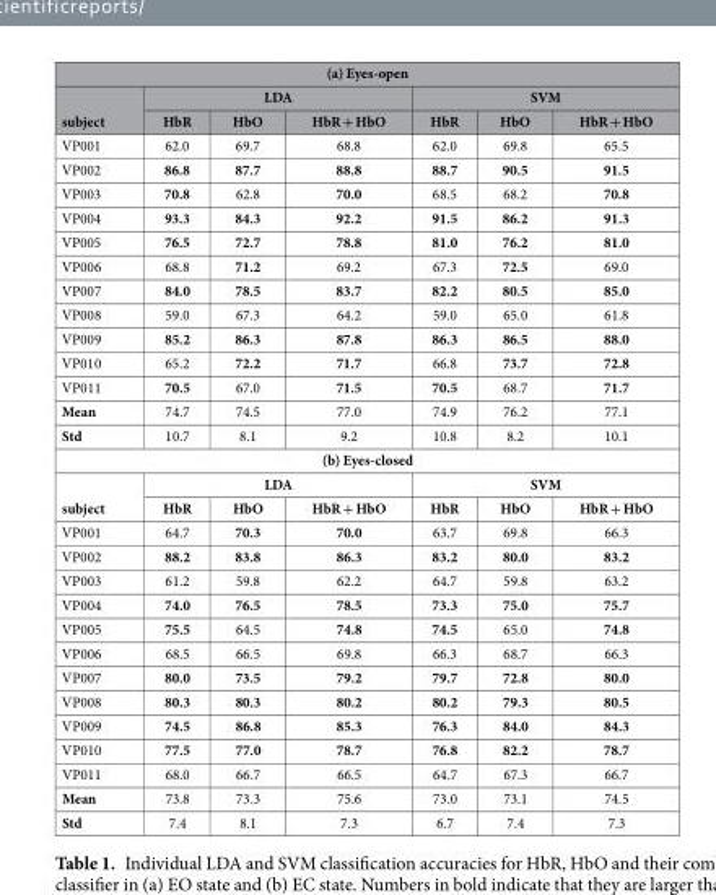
<table><thead><tr><td colspan="7">(a) Eyes-open</td></tr><tr><td rowspan="2">subject</td><td colspan="3">LDA</td><td colspan="3">SVM</td></tr><tr><td>HbR</td><td>HbO</td><td>HbR + HbO</td><td>HbR</td><td>HbO</td><td>HbR + HbO</td></tr></thead><tbody><tr><td>VP001</td><td>62.0</td><td>69.7</td><td>68.8</td><td>62.0</td><td>69.8</td><td>65.5</td></tr><tr><td>VP002</td><td>86.8</td><td>87.7</td><td>88.8</td><td>88.7</td><td>90.5</td><td>91.5</td></tr><tr><td>VP003</td><td>70.8</td><td>62.8</td><td>70.0</td><td>68.5</td><td>68.2</td><td>70.8</td></tr><tr><td>VP004</td><td>93.3</td><td>84.3</td><td>92.2</td><td>91.5</td><td>86.2</td><td>91.3</td></tr><tr><td>VP005</td><td>76.5</td><td>72.7</td><td>78.8</td><td>81.0</td><td>76.2</td><td>81.0</td></tr><tr><td>VP006</td><td>68.8</td><td>71.2</td><td>69.2</td><td>67.3</td><td>72.5</td><td>69.0</td></tr><tr><td>VP007</td><td>84.0</td><td>78.5</td><td>83.7</td><td>82.2</td><td>80.5</td><td>85.0</td></tr><tr><td>VP008</td><td>59.0</td><td>67.3</td><td>64.2</td><td>59.0</td><td>65.0</td><td>61.8</td></tr><tr><td>VP009</td><td>85.2</td><td>86.3</td><td>87.8</td><td>86.3</td><td>86.5</td><td>88.0</td></tr><tr><td>VP010</td><td>65.2</td><td>72.2</td><td>71.7</td><td>66.8</td><td>73.7</td><td>72.8</td></tr><tr><td>VP011</td><td>70.5</td><td>67.0</td><td>71.5</td><td>70.5</td><td>68.7</td><td>71.7</td></tr><tr><td>Mean</td><td>74.7</td><td>74.5</td><td>77.0</td><td>74.9</td><td>76.2</td><td>77.1</td></tr><tr><td>Std</td><td>10.7</td><td>8.1</td><td>9.2</td><td>10.8</td><td>8.2</td><td>10.1</td></tr><tr><td colspan="7">(b) Eyes-closed</td></tr><tr><td rowspan="2">subject</td><td colspan="3">LDA</td><td colspan="3">SVM</td></tr><tr><td>HbR</td><td>HbO</td><td>HbR + HbO</td><td>HbR</td><td>HbO</td><td>HbR + HbO</td></tr><tr><td>VP001</td><td>64.7</td><td>70.3</td><td>70.0</td><td>63.7</td><td>69.8</td><td>66.3</td></tr><tr><td>VP002</td><td>88.2</td><td>83.8</td><td>86.3</td><td>83.2</td><td>80.0</td><td>83.2</td></tr><tr><td>VP003</td><td>61.2</td><td>59.8</td><td>62.2</td><td>64.7</td><td>59.8</td><td>63.2</td></tr><tr><td>VP004</td><td>74.0</td><td>76.5</td><td>78.5</td><td>73.3</td><td>75.0</td><td>75.7</td></tr><tr><td>VP005</td><td>75.5</td><td>64.5</td><td>74.8</td><td>74.5</td><td>65.0</td><td>74.8</td></tr><tr><td>VP006</td><td>68.5</td><td>66.5</td><td>69.8</td><td>66.3</td><td>68.7</td><td>66.3</td></tr><tr><td>VP007</td><td>80.0</td><td>73.5</td><td>79.2</td><td>79.7</td><td>72.8</td><td>80.0</td></tr><tr><td>VP008</td><td>80.3</td><td>80.3</td><td>80.2</td><td>80.2</td><td>79.3</td><td>80.5</td></tr><tr><td>VP009</td><td>74.5</td><td>86.8</td><td>85.3</td><td>76.3</td><td>84.0</td><td>84.3</td></tr><tr><td>VP010</td><td>77.5</td><td>77.0</td><td>78.7</td><td>76.8</td><td>82.2</td><td>78.7</td></tr><tr><td>VP011</td><td>68.0</td><td>66.7</td><td>66.5</td><td>64.7</td><td>67.3</td><td>66.7</td></tr><tr><td>Mean</td><td>73.8</td><td>73.3</td><td>75.6</td><td>73.0</td><td>73.1</td><td>74.5</td></tr><tr><td>Std</td><td>7.4</td><td>8.1</td><td>7.3</td><td>6.7</td><td>7.4</td><td>7.3</td></tr></tbody></table>